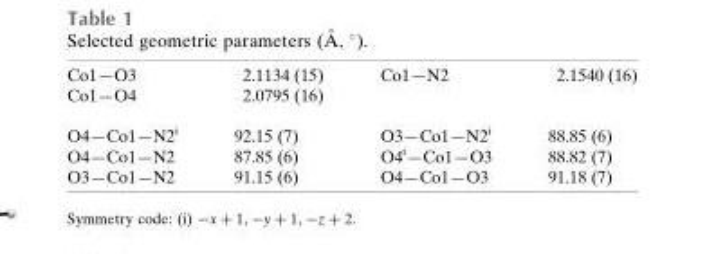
<table><tbody><tr><td>Co1—O3</td><td>2.1134 (15)</td><td>Co1—N2</td><td>2.1540 (16)</td></tr><tr><td>Co1—O4</td><td>2.0795 (16)</td><td></td><td></td></tr><tr><td>O4—Co1—N2<sup>i</sup></td><td>92.15 (7)</td><td>O3—Co1—N2<sup>i</sup></td><td>88.85 (6)</td></tr><tr><td>O4—Co1—N2</td><td>87.85 (6)</td><td>O4<sup>i</sup>—Co1—O3</td><td>88.82 (7)</td></tr><tr><td>O3—Co1—N2</td><td>91.15 (6)</td><td>O4—Co1—O3</td><td>91.18 (7)</td></tr></tbody></table>